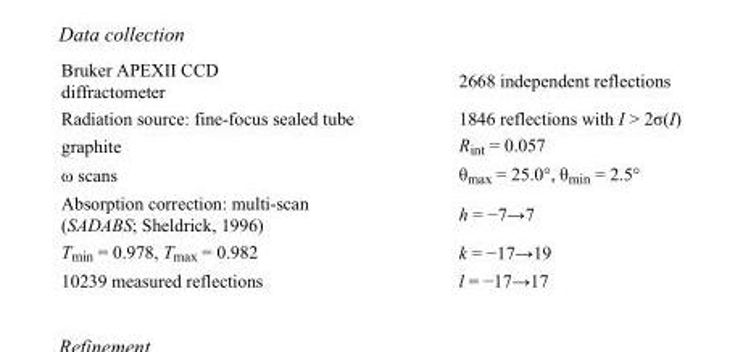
<table><tbody><tr><td>Bruker APEXII CCD diffractometer</td><td>2668 independent reflections</td></tr><tr><td>Radiation source: fine-focus sealed tube</td><td>1846 reflections with I &gt; 2σ(I)</td></tr><tr><td>graphite</td><td>R<sub>int</sub> = 0.057</td></tr><tr><td>ω scans</td><td>θ<sub>max</sub> = 25.0°, θ<sub>min</sub> = 2.5°</td></tr><tr><td>Absorption correction: multi-scan (SADABS; Sheldrick, 1996)</td><td>h = −7→7</td></tr><tr><td>T<sub>min</sub> = 0.978, T<sub>max</sub> = 0.982</td><td>k = −17→19</td></tr><tr><td>10239 measured reflections</td><td>l = −17→17</td></tr></tbody></table>